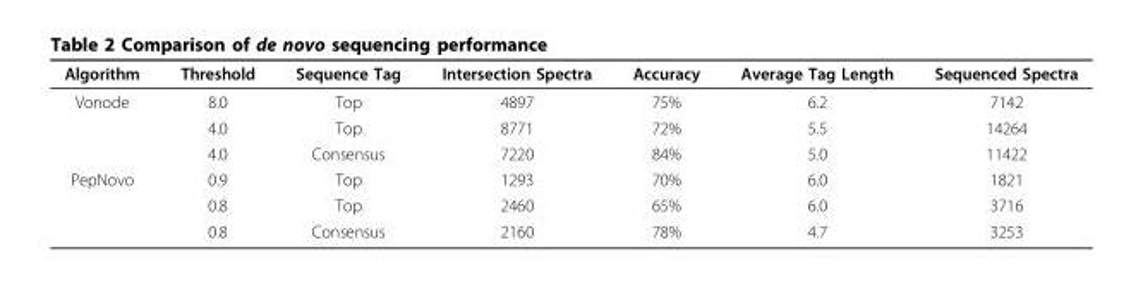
<table><thead><tr><td>Algorithm</td><td>Threshold</td><td>Sequence Tag</td><td>Intersection Spectra</td><td>Accuracy</td><td>Average Tag Length</td><td>Sequenced Spectra</td></tr></thead><tbody><tr><td rowspan="3">Vonode</td><td>8.0</td><td>Top</td><td>4897</td><td>75%</td><td>6.2</td><td>7142</td></tr><tr><td>4.0</td><td>Top</td><td>8771</td><td>72%</td><td>5.5</td><td>14264</td></tr><tr><td>4.0</td><td>Consensus</td><td>7220</td><td>84%</td><td>5.0</td><td>11422</td></tr><tr><td rowspan="3">PepNovo</td><td>0.9</td><td>Top</td><td>1293</td><td>70%</td><td>6.0</td><td>1821</td></tr><tr><td>0.8</td><td>Top</td><td>2460</td><td>65%</td><td>6.0</td><td>3716</td></tr><tr><td>0.8</td><td>Consensus</td><td>2160</td><td>78%</td><td>4.7</td><td>3253</td></tr></tbody></table>